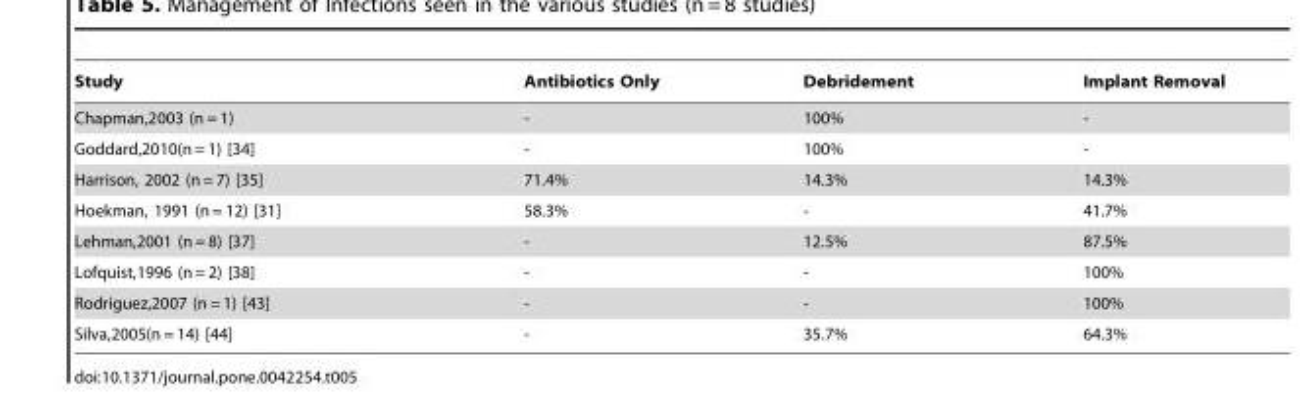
<table><thead><tr><td>Study</td><td>Antibiotics Only</td><td>Debridement</td><td>Implant Removal</td></tr></thead><tbody><tr><td>Chapman,2003 (n = 1)</td><td>-</td><td>100%</td><td>-</td></tr><tr><td>Goddard,2010(n = 1) [34]</td><td>-</td><td>100%</td><td>-</td></tr><tr><td>Harrison, 2002 (n = 7) [35]</td><td>71.4%</td><td>14.3%</td><td>14.3%</td></tr><tr><td>Hoekman, 1991 (n = 12) [31]</td><td>58.3%</td><td>-</td><td>41.7%</td></tr><tr><td>Lehman,2001 (n = 8) [37]</td><td>-</td><td>12.5%</td><td>87.5%</td></tr><tr><td>Lofquist,1996 (n = 2) [38]</td><td>-</td><td>-</td><td>100%</td></tr><tr><td>Rodriguez,2007 (n = 1) [43]</td><td>-</td><td>-</td><td>100%</td></tr><tr><td>Silva,2005(n = 14) [44]</td><td>-</td><td>35.7%</td><td>64.3%</td></tr></tbody></table>